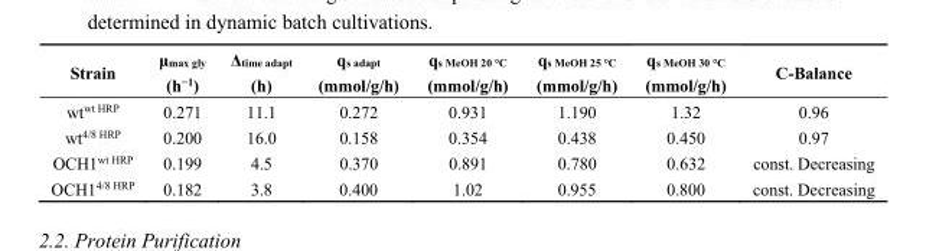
<table><thead><tr><td>Strain</td><td>μ<sub>max gly</sub> (h<sup>−1</sup>)</td><td>Δ<sub>time adapt</sub> (h)</td><td>q<sub>s adapt</sub> (mmol/g/h)</td><td>q<sub>s MeOH 20 °C</sub> (mmol/g/h)</td><td>q<sub>s MeOH 25 °C</sub> (mmol/g/h)</td><td>q<sub>s MeOH 30 °C</sub> (mmol/g/h)</td><td>C-Balance</td></tr></thead><tbody><tr><td>wt<sup>wt HRP</sup></td><td>0.271</td><td>11.1</td><td>0.272</td><td>0.931</td><td>1.190</td><td>1.32</td><td>0.96</td></tr><tr><td>wt<sup>4/8 HRP</sup></td><td>0.200</td><td>16.0</td><td>0.158</td><td>0.354</td><td>0.438</td><td>0.450</td><td>0.97</td></tr><tr><td>OCH1<sup>wt HRP</sup></td><td>0.199</td><td>4.5</td><td>0.370</td><td>0.891</td><td>0.780</td><td>0.632</td><td>const. Decreasing</td></tr><tr><td>OCH1<sup>4/8 HRP</sup></td><td>0.182</td><td>3.8</td><td>0.400</td><td>1.02</td><td>0.955</td><td>0.800</td><td>const. Decreasing</td></tr></tbody></table>